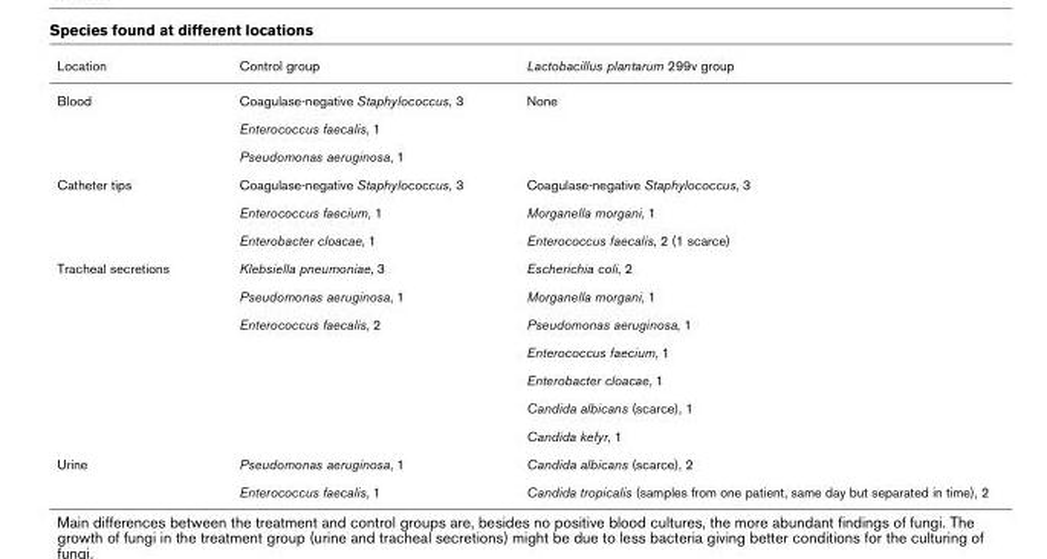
<table><thead><tr><td>Location</td><td>Control group</td><td>Lactobacillus plantarum 299v group</td></tr></thead><tbody><tr><td rowspan="3">Blood</td><td>Coagulase-negative Staphylococcus, 3</td><td>None</td></tr><tr><td>Enterococcus faecalis, 1</td><td></td></tr><tr><td>Pseudomonas aeruginosa, 1</td><td></td></tr><tr><td rowspan="3">Catheter tips</td><td>Coagulase-negative Staphylococcus, 3</td><td>Coagulase-negative Staphylococcus, 3</td></tr><tr><td>Enterococcus faecium, 1</td><td>Morganella morgani, 1</td></tr><tr><td>Enterobacter cloacae, 1</td><td>Enterococcus faecalis, 2 (1 scarce)</td></tr><tr><td rowspan="7">Tracheal secretions</td><td>Klebsiella pneumoniae, 3</td><td>Escherichia coli, 2</td></tr><tr><td>Pseudomonas aeruginosa, 1</td><td>Morganella morgani, 1</td></tr><tr><td>Enterococcus faecalis, 2</td><td>Pseudomonas aeruginosa, 1</td></tr><tr><td></td><td>Enterococcus faecium, 1</td></tr><tr><td></td><td>Enterobacter cloacae, 1</td></tr><tr><td></td><td>Candida albicans (scarce), 1</td></tr><tr><td></td><td>Candida kefyr, 1</td></tr><tr><td rowspan="2">Urine</td><td>Pseudomonas aeruginosa, 1</td><td>Candida albicans (scarce), 2</td></tr><tr><td>Enterococcus faecalis, 1</td><td>Candida tropicalis (samples from one patient, same day but separated in time), 2</td></tr></tbody></table>